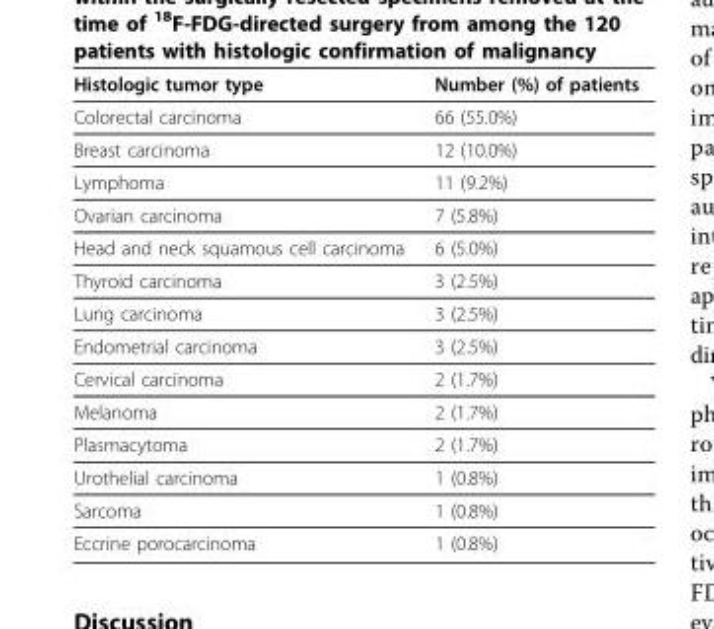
<table><thead><tr><td>Histologic tumor type</td><td>Number (%) of patients</td></tr></thead><tbody><tr><td>Colorectal carcinoma</td><td>66 (55.0%)</td></tr><tr><td>Breast carcinoma</td><td>12 (10.0%)</td></tr><tr><td>Lymphoma</td><td>11 (9.2%)</td></tr><tr><td>Ovarian carcinoma</td><td>7 (5.8%)</td></tr><tr><td>Head and neck squamous cell carcinoma</td><td>6 (5.0%)</td></tr><tr><td>Thyroid carcinoma</td><td>3 (2.5%)</td></tr><tr><td>Lung carcinoma</td><td>3 (2.5%)</td></tr><tr><td>Endometrial carcinoma</td><td>3 (2.5%)</td></tr><tr><td>Cervical carcinoma</td><td>2 (1.7%)</td></tr><tr><td>Melanoma</td><td>2 (1.7%)</td></tr><tr><td>Plasmacytoma</td><td>2 (1.7%)</td></tr><tr><td>Urothelial carcinoma</td><td>1 (0.8%)</td></tr><tr><td>Sarcoma</td><td>1 (0.8%)</td></tr><tr><td>Eccrine porocarcinoma</td><td>1 (0.8%)</td></tr></tbody></table>